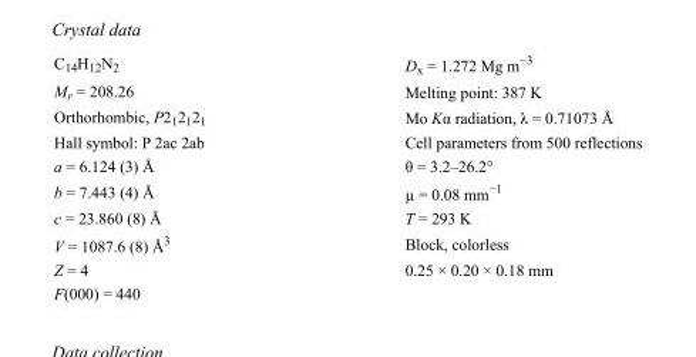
<table><tbody><tr><td>C<sub>14</sub>H<sub>12</sub>N<sub>2</sub></td><td>D<sub>x</sub> = 1.272 Mg m<sup>−3</sup></td></tr><tr><td>M<sub>r</sub> = 208.26</td><td>Melting point: 387 K</td></tr><tr><td>Orthorhombic, P2<sub>1</sub>2<sub>1</sub>2<sub>1</sub></td><td>Mo Kα radiation, λ = 0.71073 Å</td></tr><tr><td>Hall symbol: P 2ac 2ab</td><td>Cell parameters from 500 reflections</td></tr><tr><td>a = 6.124 (3) Å</td><td>θ = 3.2–26.2°</td></tr><tr><td>b = 7.443 (4) Å</td><td>µ = 0.08 mm<sup>−1</sup></td></tr><tr><td>c = 23.860 (8) Å</td><td>T = 293 K</td></tr><tr><td>V = 1087.6 (8) Å<sup>3</sup></td><td>Block, colorless</td></tr><tr><td>Z = 4</td><td>0.25 × 0.20 × 0.18 mm</td></tr><tr><td>F(000) = 440</td><td></td></tr></tbody></table>